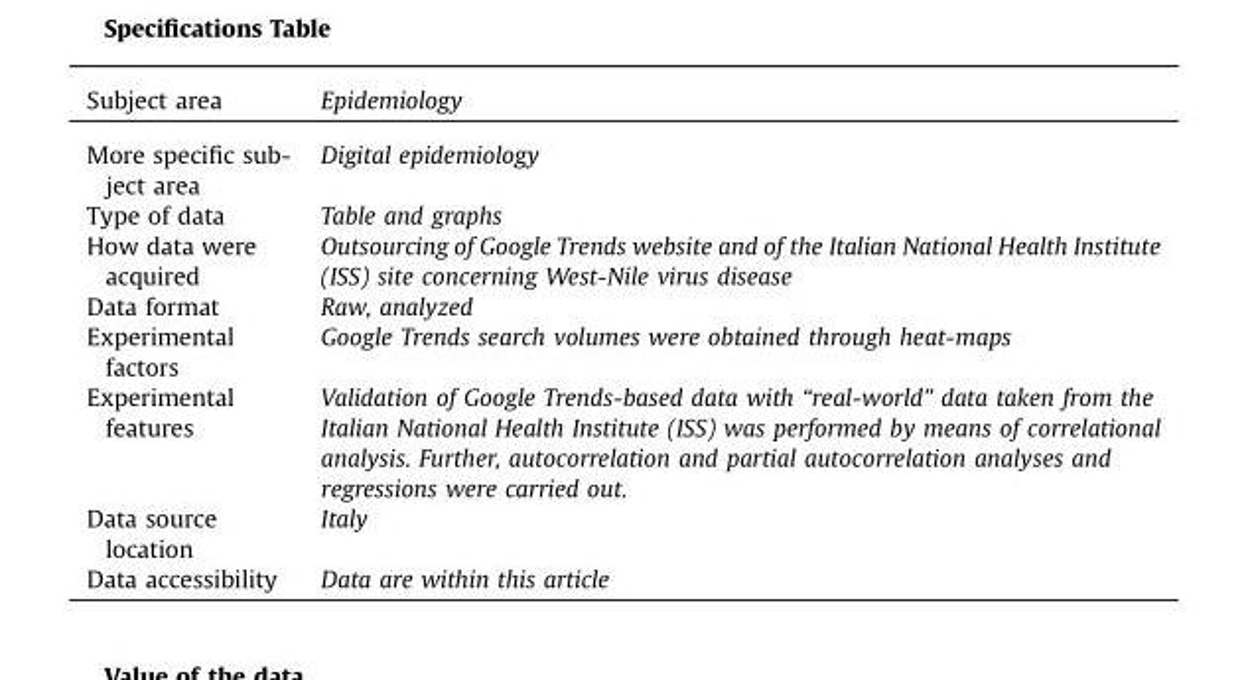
<table><thead><tr><td>Subject area</td><td>Epidemiology</td></tr></thead><tbody><tr><td>More specific sub- ject area</td><td>Digital epidemiology</td></tr><tr><td>Type of data</td><td>Table and graphs</td></tr><tr><td>How data were acquired</td><td>Outsourcing of Google Trends website and of the Italian National Health Institute (ISS) site concerning West-Nile virus disease</td></tr><tr><td>Data format</td><td>Raw, analyzed</td></tr><tr><td>Experimental factors</td><td>Google Trends search volumes were obtained through heat-maps</td></tr><tr><td>Experimental features</td><td>Validation of Google Trends-based data with “real-world” data taken from the Italian National Health Institute (ISS) was performed by means of correlational analysis. Further, autocorrelation and partial autocorrelation analyses and regressions were carried out.</td></tr><tr><td>Data source location</td><td>Italy</td></tr><tr><td>Data accessibility</td><td>Data are within this article</td></tr></tbody></table>